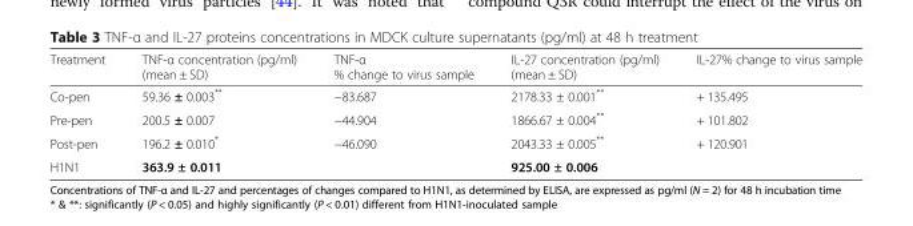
<table><thead><tr><td>Treatment</td><td>TNF-α concentration (pg/ml) (mean ± SD)</td><td>TNF-α % change to virus sample</td><td>IL-27 concentration (pg/ml) (mean ± SD)</td><td>IL-27% change to virus sample</td></tr></thead><tbody><tr><td>Co-pen</td><td>59.36 ± 0.003**</td><td>−83.687</td><td>2178.33 ± 0.001**</td><td>+ 135.495</td></tr><tr><td>Pre-pen</td><td>200.5 ± 0.007</td><td>−44.904</td><td>1866.67 ± 0.004**</td><td>+ 101.802</td></tr><tr><td>Post-pen</td><td>196.2 ± 0.010*</td><td>−46.090</td><td>2043.33 ± 0.005**</td><td>+ 120.901</td></tr><tr><td>H1N1</td><td>363.9 ± 0.011</td><td></td><td>925.00 ± 0.006</td><td></td></tr></tbody></table>